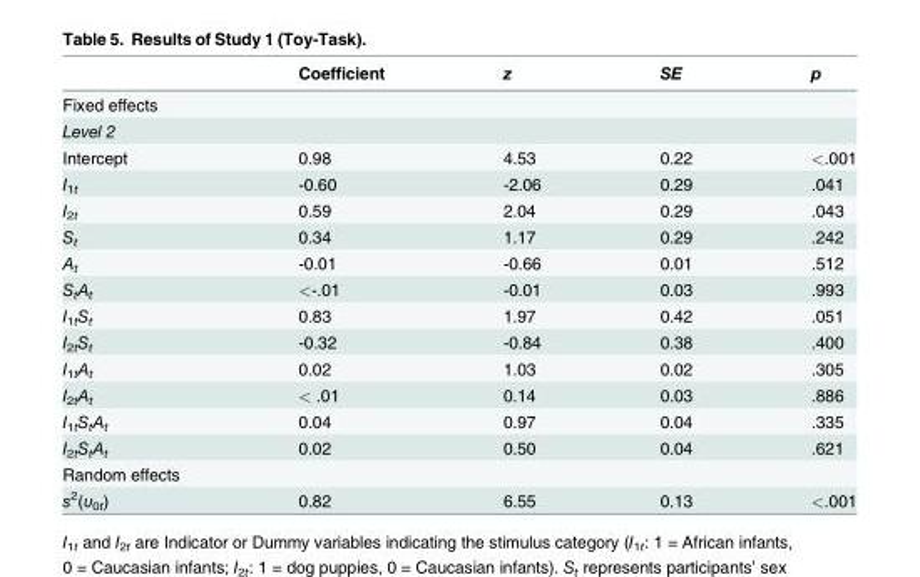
<table><thead><tr><td></td><td>Coefficient</td><td>z</td><td>SE</td><td>p</td></tr></thead><tbody><tr><td colspan="5">Fixed effects</td></tr><tr><td colspan="5">Level 2</td></tr><tr><td>Intercept</td><td>0.98</td><td>4.53</td><td>0.22</td><td>&lt;.001</td></tr><tr><td>I<sub>1t</sub></td><td>-0.60</td><td>-2.06</td><td>0.29</td><td>.041</td></tr><tr><td>I<sub>2t</sub></td><td>0.59</td><td>2.04</td><td>0.29</td><td>.043</td></tr><tr><td>S<sub>t</sub></td><td>0.34</td><td>1.17</td><td>0.29</td><td>.242</td></tr><tr><td>A<sub>t</sub></td><td>-0.01</td><td>-0.66</td><td>0.01</td><td>.512</td></tr><tr><td>S<sub>t</sub>A<sub>t</sub></td><td>&lt;-.01</td><td>-0.01</td><td>0.03</td><td>.993</td></tr><tr><td>I<sub>1t</sub>S<sub>t</sub></td><td>0.83</td><td>1.97</td><td>0.42</td><td>.051</td></tr><tr><td>I<sub>2t</sub>S<sub>t</sub></td><td>-0.32</td><td>-0.84</td><td>0.38</td><td>.400</td></tr><tr><td>I<sub>1t</sub>A<sub>t</sub></td><td>0.02</td><td>1.03</td><td>0.02</td><td>.305</td></tr><tr><td>I<sub>2t</sub>A<sub>t</sub></td><td>&lt; .01</td><td>0.14</td><td>0.03</td><td>.886</td></tr><tr><td>I<sub>1t</sub>S<sub>t</sub>A<sub>t</sub></td><td>0.04</td><td>0.97</td><td>0.04</td><td>.335</td></tr><tr><td>I<sub>2t</sub>S<sub>t</sub>A<sub>t</sub></td><td>0.02</td><td>0.50</td><td>0.04</td><td>.621</td></tr><tr><td colspan="5">Random effects</td></tr><tr><td>s<sup>2</sup>(υ<sub>0t</sub>)</td><td>0.82</td><td>6.55</td><td>0.13</td><td>&lt;.001</td></tr></tbody></table>